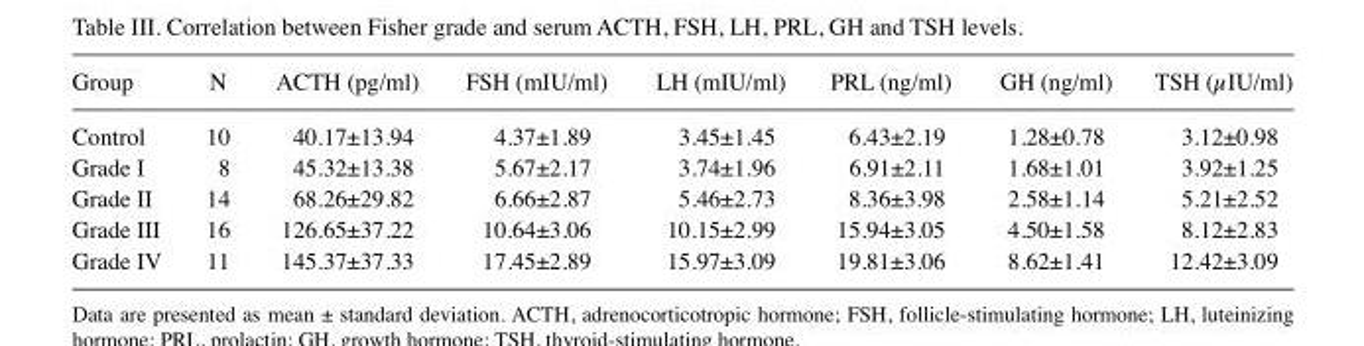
<table><thead><tr><td>Group</td><td>N</td><td>ACTH (pg/ml)</td><td>FSH (mIU/ml)</td><td>LH (mIU/ml)</td><td>PRL (ng/ml)</td><td>GH (ng/ml)</td><td>TSH (µIU/ml)</td></tr></thead><tbody><tr><td>Control</td><td>10</td><td>40.17±13.94</td><td>4.37±1.89</td><td>3.45±1.45</td><td>6.43±2.19</td><td>1.28±0.78</td><td>3.12±0.98</td></tr><tr><td>Grade I</td><td>8</td><td>45.32±13.38</td><td>5.67±2.17</td><td>3.74±1.96</td><td>6.91±2.11</td><td>1.68±1.01</td><td>3.92±1.25</td></tr><tr><td>Grade II</td><td>14</td><td>68.26±29.82</td><td>6.66±2.87</td><td>5.46±2.73</td><td>8.36±3.98</td><td>2.58±1.14</td><td>5.21±2.52</td></tr><tr><td>Grade III</td><td>16</td><td>126.65±37.22</td><td>10.64±3.06</td><td>10.15±2.99</td><td>15.94±3.05</td><td>4.50±1.58</td><td>8.12±2.83</td></tr><tr><td>Grade IV</td><td>11</td><td>145.37±37.33</td><td>17.45±2.89</td><td>15.97±3.09</td><td>19.81±3.06</td><td>8.62±1.41</td><td>12.42±3.09</td></tr></tbody></table>